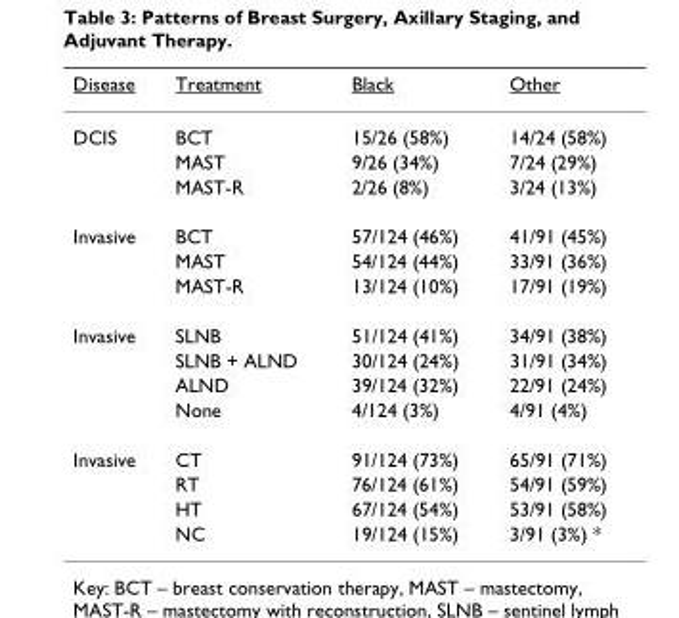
<table><thead><tr><td>Disease</td><td>Treatment</td><td>Black</td><td>Other</td></tr></thead><tbody><tr><td rowspan="3">DCIS</td><td>BCT</td><td>15/26 (58%)</td><td>14/24 (58%)</td></tr><tr><td>MAST</td><td>9/26 (34%)</td><td>7/24 (29%)</td></tr><tr><td>MAST-R</td><td>2/26 (8%)</td><td>3/24 (13%)</td></tr><tr><td rowspan="3">Invasive</td><td>BCT</td><td>57/124 (46%)</td><td>41/91 (45%)</td></tr><tr><td>MAST</td><td>54/124 (44%)</td><td>33/91 (36%)</td></tr><tr><td>MAST-R</td><td>13/124 (10%)</td><td>17/91 (19%)</td></tr><tr><td rowspan="4">Invasive</td><td>SLNB</td><td>51/124 (41%)</td><td>34/91 (38%)</td></tr><tr><td>SLNB + ALND</td><td>30/124 (24%)</td><td>31/91 (34%)</td></tr><tr><td>ALND</td><td>39/124 (32%)</td><td>22/91 (24%)</td></tr><tr><td>None</td><td>4/124 (3%)</td><td>4/91 (4%)</td></tr><tr><td rowspan="4">Invasive</td><td>CT</td><td>91/124 (73%)</td><td>65/91 (71%)</td></tr><tr><td>RT</td><td>76/124 (61%)</td><td>54/91 (59%)</td></tr><tr><td>HT</td><td>67/124 (54%)</td><td>53/91 (58%)</td></tr><tr><td>NC</td><td>19/124 (15%)</td><td>3/91 (3%) *</td></tr></tbody></table>